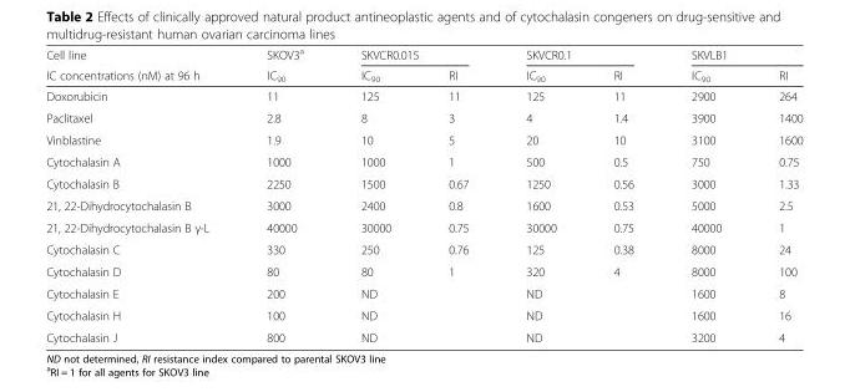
<table><thead><tr><td rowspan="2">Cell line IC concentrations (nM) at 96 h</td><td rowspan="2">SKOV3<sup>a</sup> IC<sub>90</sub></td><td colspan="2">SKVCR0.015</td><td colspan="2">SKVCR0.1</td><td colspan="2">SKVLB1</td></tr><tr><td>IC<sub>90</sub></td><td>RI</td><td>IC<sub>90</sub></td><td>RI</td><td>IC<sub>90</sub></td><td>RI</td></tr></thead><tbody><tr><td>Doxorubicin</td><td>11</td><td>125</td><td>11</td><td>125</td><td>11</td><td>2900</td><td>264</td></tr><tr><td>Paclitaxel</td><td>2.8</td><td>8</td><td>3</td><td>4</td><td>1.4</td><td>3900</td><td>1400</td></tr><tr><td>Vinblastine</td><td>1.9</td><td>10</td><td>5</td><td>20</td><td>10</td><td>3100</td><td>1600</td></tr><tr><td>Cytochalasin A</td><td>1000</td><td>1000</td><td>1</td><td>500</td><td>0.5</td><td>750</td><td>0.75</td></tr><tr><td>Cytochalasin B</td><td>2250</td><td>1500</td><td>0.67</td><td>1250</td><td>0.56</td><td>3000</td><td>1.33</td></tr><tr><td>21, 22-Dihydrocytochalasin B</td><td>3000</td><td>2400</td><td>0.8</td><td>1600</td><td>0.53</td><td>5000</td><td>2.5</td></tr><tr><td>21, 22-Dihydrocytochalasin B γ-L</td><td>40000</td><td>30000</td><td>0.75</td><td>30000</td><td>0.75</td><td>40000</td><td>1</td></tr><tr><td>Cytochalasin C</td><td>330</td><td>250</td><td>0.76</td><td>125</td><td>0.38</td><td>8000</td><td>24</td></tr><tr><td>Cytochalasin D</td><td>80</td><td>80</td><td>1</td><td>320</td><td>4</td><td>8000</td><td>100</td></tr><tr><td>Cytochalasin E</td><td>200</td><td>ND</td><td></td><td>ND</td><td></td><td>1600</td><td>8</td></tr><tr><td>Cytochalasin H</td><td>100</td><td>ND</td><td></td><td>ND</td><td></td><td>1600</td><td>16</td></tr><tr><td>Cytochalasin J</td><td>800</td><td>ND</td><td></td><td>ND</td><td></td><td>3200</td><td>4</td></tr></tbody></table>